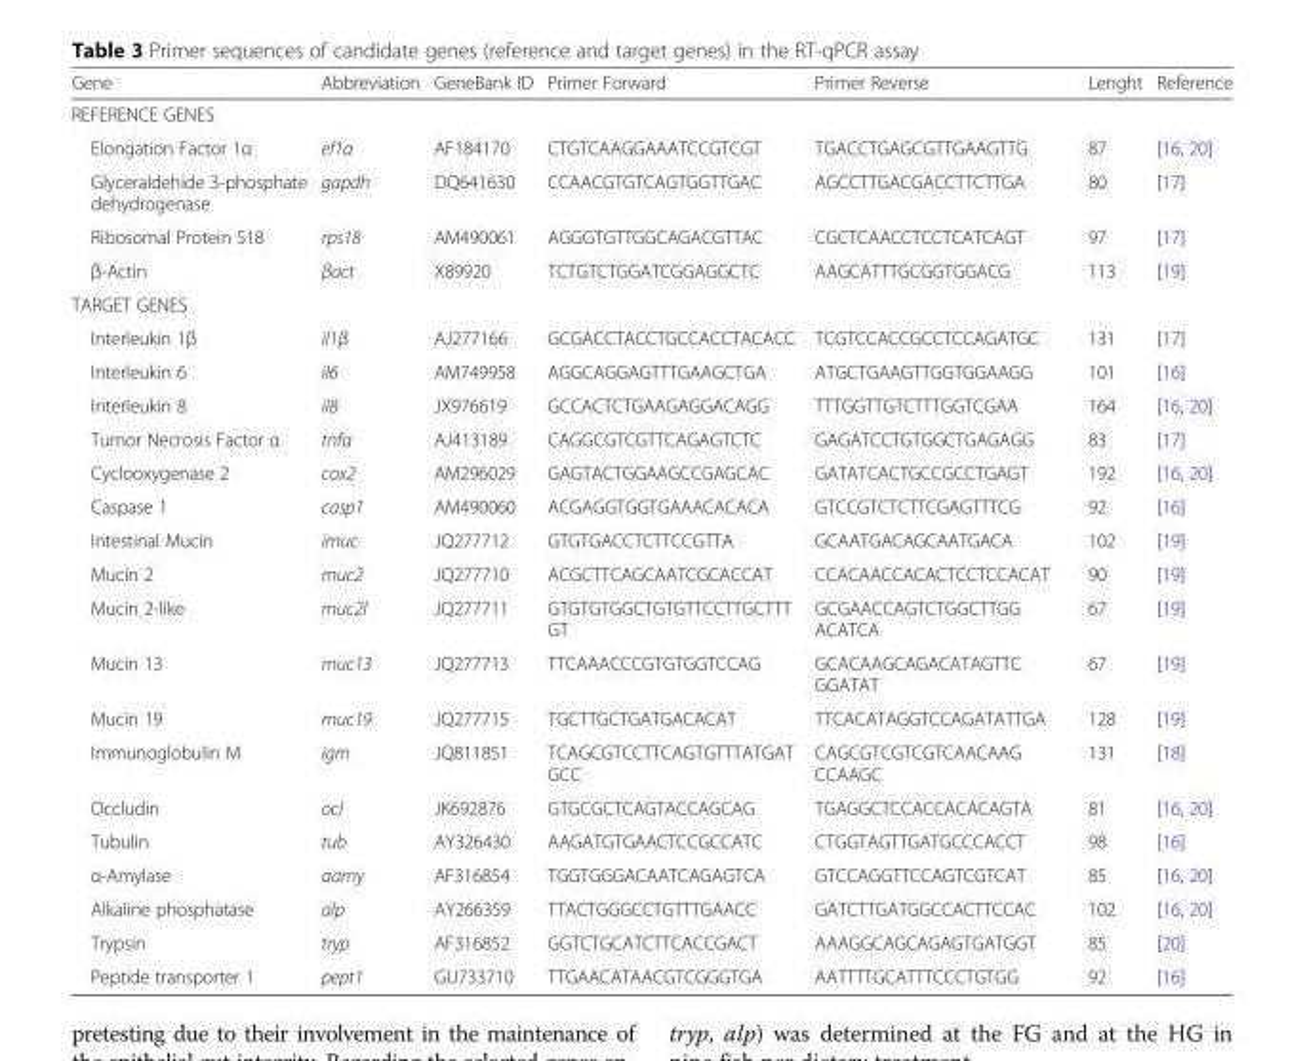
<table><thead><tr><td>Gene</td><td>Abbreviation</td><td>GeneBank ID</td><td>Primer Forward</td><td>Primer Reverse</td><td>Lenght</td><td>Reference</td></tr></thead><tbody><tr><td colspan="7">REFERENCE GENES</td></tr><tr><td>Elongation Factor 1α</td><td>ef1α</td><td>AF184170</td><td>CTGTCAAGGAAATCCGTCGT</td><td>TGACCTGAGCGTTGAAGTTG</td><td>87</td><td>[16, 20]</td></tr><tr><td>Glyceraldehide 3-phosphate dehydrogenase</td><td>gapdh</td><td>DQ641630</td><td>CCAACGTGTCAGTGGTTGAC</td><td>AGCCTTGACGACCTTCTTGA</td><td>80</td><td>[17]</td></tr><tr><td>Ribosomal Protein S18</td><td>rps18</td><td>AM490061</td><td>AGGGTGTTGGCAGACGTTAC</td><td>CGCTCAACCTCCTCATCAGT</td><td>97</td><td>[17]</td></tr><tr><td>β-Actin</td><td>βact</td><td>X89920</td><td>TCTGTCTGGATCGGAGGCTC</td><td>AAGCATTTGCGGTGGACG</td><td>113</td><td>[19]</td></tr><tr><td colspan="7">TARGET GENES</td></tr><tr><td>Interleukin 1β</td><td>il1β</td><td>AJ277166</td><td>GCGACCTACCTGCCACCTACACC</td><td>TCGTCCACCGCCTCCAGATGC</td><td>131</td><td>[17]</td></tr><tr><td>Interleukin 6</td><td>il6</td><td>AM749958</td><td>AGGCAGGAGTTTGAAGCTGA</td><td>ATGCTGAAGTTGGTGGAAGG</td><td>101</td><td>[16]</td></tr><tr><td>Interleukin 8</td><td>il8</td><td>JX976619</td><td>GCCACTCTGAAGAGGACAGG</td><td>TTTGGTTGTCTTTGGTCGAA</td><td>164</td><td>[16, 20]</td></tr><tr><td>Tumor Necrosis Factor α</td><td>tnfα</td><td>AJ413189</td><td>CAGGCGTCGTTCAGAGTCTC</td><td>GAGATCCTGTGGCTGAGAGG</td><td>83</td><td>[17]</td></tr><tr><td>Cyclooxygenase 2</td><td>cox2</td><td>AM296029</td><td>GAGTACTGGAAGCCGAGCAC</td><td>GATATCACTGCCGCCTGAGT</td><td>192</td><td>[16, 20]</td></tr><tr><td>Caspase 1</td><td>casp1</td><td>AM490060</td><td>ACGAGGTGGTGAAACACACA</td><td>GTCCGTCTCTTCGAGTTTCG</td><td>92</td><td>[16]</td></tr><tr><td>Intestinal Mucin</td><td>imuc</td><td>JQ277712</td><td>GTGTGACCTCTTCCGTTA</td><td>GCAATGACAGCAATGACA</td><td>102</td><td>[19]</td></tr><tr><td>Mucin 2</td><td>muc2</td><td>JQ277710</td><td>ACGCTTCAGCAATCGCACCAT</td><td>CCACAACCACACTCCTCCACAT</td><td>90</td><td>[19]</td></tr><tr><td>Mucin 2-like</td><td>muc2l</td><td>JQ277711</td><td>GTGTGTGGCTGTGTTCCTTGCTTT GT</td><td>GCGAACCAGTCTGGCTTGG ACATCA</td><td>67</td><td>[19]</td></tr><tr><td>Mucin 13</td><td>muc13</td><td>JQ277713</td><td>TTCAAACCCGTGTGGTCCAG</td><td>GCACAAGCAGACATAGTTC GGATAT</td><td>67</td><td>[19]</td></tr><tr><td>Mucin 19</td><td>muc19</td><td>JQ277715</td><td>TGCTTGCTGATGACACAT</td><td>TTCACATAGGTCCAGATATTGA</td><td>128</td><td>[19]</td></tr><tr><td>Immunoglobulin M</td><td>igm</td><td>JQ811851</td><td>TCAGCGTCCTTCAGTGTTTATGAT GCC</td><td>CAGCGTCGTCGTCAACAAG CCAAGC</td><td>131</td><td>[18]</td></tr><tr><td>Occludin</td><td>ocl</td><td>JK692876</td><td>GTGCGCTCAGTACCAGCAG</td><td>TGAGGCTCCACCACACAGTA</td><td>81</td><td>[16, 20]</td></tr><tr><td>Tubulin</td><td>tub</td><td>AY326430</td><td>AAGATGTGAACTCCGCCATC</td><td>CTGGTAGTTGATGCCCACCT</td><td>98</td><td>[16]</td></tr><tr><td>α-Amylase</td><td>αamy</td><td>AF316854</td><td>TGGTGGGACAATCAGAGTCA</td><td>GTCCAGGTTCCAGTCGTCAT</td><td>85</td><td>[16, 20]</td></tr><tr><td>Alkaline phosphatase</td><td>alp</td><td>AY266359</td><td>TTACTGGGCCTGTTTGAACC</td><td>GATCTTGATGGCCACTTCCAC</td><td>102</td><td>[16, 20]</td></tr><tr><td>Trypsin</td><td>tryp</td><td>AF316852</td><td>GGTCTGCATCTTCACCGACT</td><td>AAAGGCAGCAGAGTGATGGT</td><td>85</td><td>[20]</td></tr><tr><td>Peptide transporter 1</td><td>pept1</td><td>GU733710</td><td>TTGAACATAACGTCGGGTGA</td><td>AATTTTGCATTTCCCTGTGG</td><td>92</td><td>[16]</td></tr></tbody></table>